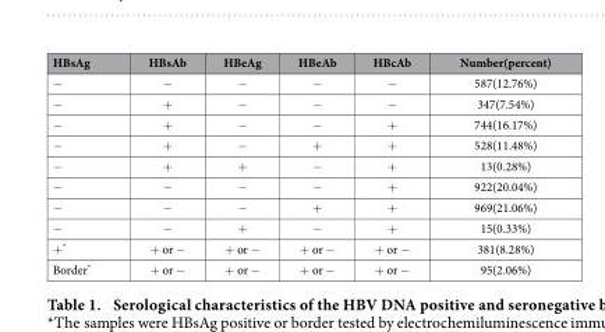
<table><thead><tr><td>HBsAg</td><td>HBsAb</td><td>HBeAg</td><td>HBeAb</td><td>HBcAb</td><td>Number(percent)</td></tr></thead><tbody><tr><td>−</td><td>−</td><td>−</td><td>−</td><td>−</td><td>587(12.76%)</td></tr><tr><td>−</td><td>+</td><td>−</td><td>−</td><td>−</td><td>347(7.54%)</td></tr><tr><td>−</td><td>+</td><td>−</td><td>−</td><td>+</td><td>744(16.17%)</td></tr><tr><td>−</td><td>+</td><td>−</td><td>+</td><td>+</td><td>528(11.48%)</td></tr><tr><td>−</td><td>+</td><td>+</td><td>−</td><td>+</td><td>13(0.28%)</td></tr><tr><td>−</td><td>−</td><td>−</td><td>−</td><td>+</td><td>922(20.04%)</td></tr><tr><td>−</td><td>−</td><td>−</td><td>+</td><td>+</td><td>969(21.06%)</td></tr><tr><td>−</td><td>−</td><td>+</td><td>−</td><td>+</td><td>15(0.33%)</td></tr><tr><td>+ *</td><td>+ or −</td><td>+ or −</td><td>+ or −</td><td>+ or −</td><td>381(8.28%)</td></tr><tr><td>Border*</td><td>+ or −</td><td>+ or −</td><td>+ or −</td><td>+ or −</td><td>95(2.06%)</td></tr></tbody></table>